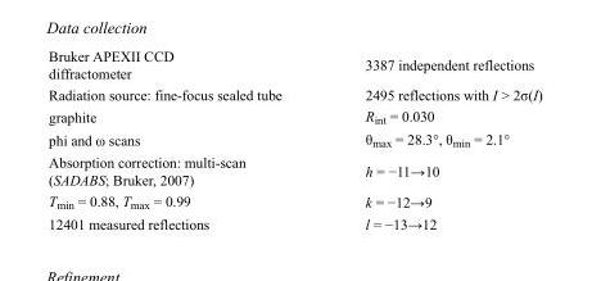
<table><tbody><tr><td>Bruker APEXII CCD diffractometer</td><td>3387 independent reflections</td></tr><tr><td>Radiation source: fine-focus sealed tube</td><td>2495 reflections with I &gt; 2σ(I)</td></tr><tr><td>graphite</td><td>R<sub>int</sub> = 0.030</td></tr><tr><td>phi and ω scans</td><td>θ<sub>max</sub> = 28.3°, θ<sub>min</sub> = 2.1°</td></tr><tr><td>Absorption correction: multi-scan (SADABS; Bruker, 2007)</td><td>h = −11→10</td></tr><tr><td>T<sub>min</sub> = 0.88, T<sub>max</sub> = 0.99</td><td>k = −12→9</td></tr><tr><td>12401 measured reflections</td><td>l = −13→12</td></tr></tbody></table>